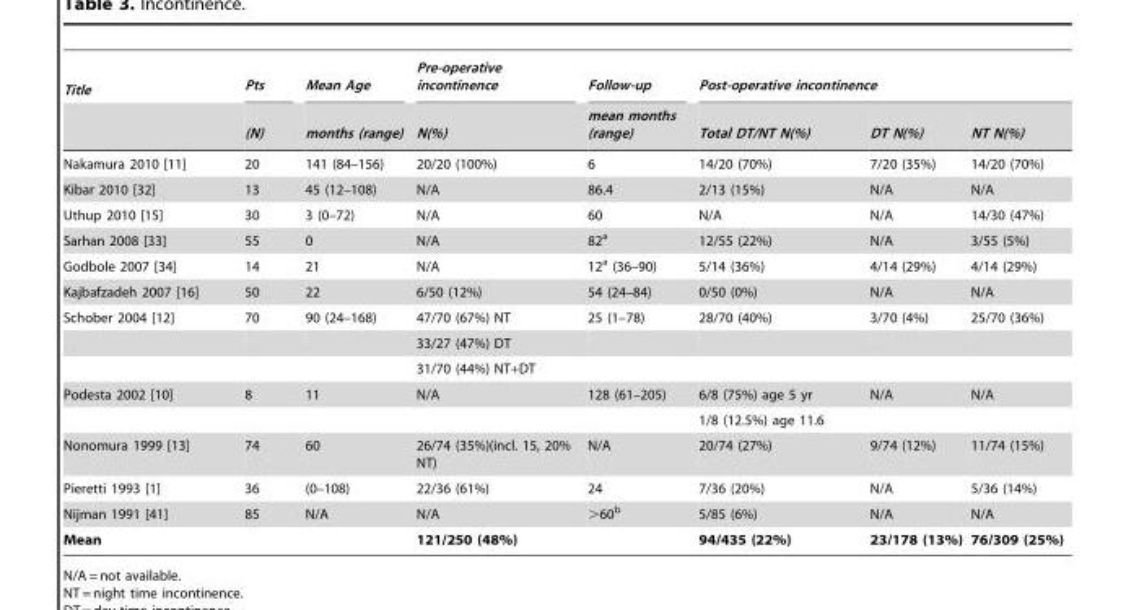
<table><thead><tr><td rowspan="2">Title</td><td rowspan="2">Pts (N)</td><td rowspan="2">Mean Age months (range)</td><td rowspan="2">Pre-operative incontinence N(%)</td><td rowspan="2">Follow-up mean months (range)</td><td colspan="3">Post-operative incontinence</td></tr><tr><td>Total DT/NT N(%)</td><td>DT N(%)</td><td>NT N(%)</td></tr></thead><tbody><tr><td>Nakamura 2010 [11]</td><td>20</td><td>141 (84–156)</td><td>20/20 (100%)</td><td>6</td><td>14/20 (70%)</td><td>7/20 (35%)</td><td>14/20 (70%)</td></tr><tr><td>Kibar 2010 [32]</td><td>13</td><td>45 (12–108)</td><td>N/A</td><td>86.4</td><td>2/13 (15%)</td><td>N/A</td><td>N/A</td></tr><tr><td>Uthup 2010 [15]</td><td>30</td><td>3 (0–72)</td><td>N/A</td><td>60</td><td>N/A</td><td>N/A</td><td>14/30 (47%)</td></tr><tr><td>Sarhan 2008 [33]</td><td>55</td><td>0</td><td>N/A</td><td>82<sup>a</sup></td><td>12/55 (22%)</td><td>N/A</td><td>3/55 (5%)</td></tr><tr><td>Godbole 2007 [34]</td><td>14</td><td>21</td><td>N/A</td><td>12<sup>a</sup> (36–90)</td><td>5/14 (36%)</td><td>4/14 (29%)</td><td>4/14 (29%)</td></tr><tr><td>Kajbafzadeh 2007 [16]</td><td>50</td><td>22</td><td>6/50 (12%)</td><td>54 (24–84)</td><td>0/50 (0%)</td><td>N/A</td><td>N/A</td></tr><tr><td rowspan="3">Schober 2004 [12]</td><td>70</td><td>90 (24–168)</td><td>47/70 (67%) NT</td><td>25 (1–78)</td><td>28/70 (40%)</td><td>3/70 (4%)</td><td>25/70 (36%)</td></tr><tr><td></td><td></td><td>33/27 (47%) DT</td><td></td><td></td><td></td><td></td></tr><tr><td></td><td></td><td>31/70 (44%) NT+DT</td><td></td><td></td><td></td><td></td></tr><tr><td rowspan="2">Podesta 2002 [10]</td><td>8</td><td>11</td><td>N/A</td><td>128 (61–205)</td><td>6/8 (75%) age 5 yr</td><td>N/A</td><td>N/A</td></tr><tr><td></td><td></td><td></td><td></td><td>1/8 (12.5%) age 11.6</td><td></td><td></td></tr><tr><td>Nonomura 1999 [13]</td><td>74</td><td>60</td><td>26/74 (35%)(incl. 15, 20% NT)</td><td>N/A</td><td>20/74 (27%)</td><td>9/74 (12%)</td><td>11/74 (15%)</td></tr><tr><td>Pieretti 1993 [1]</td><td>36</td><td>(0–108)</td><td>22/36 (61%)</td><td>24</td><td>7/36 (20%)</td><td>N/A</td><td>5/36 (14%)</td></tr><tr><td>Nijman 1991 [41]</td><td>85</td><td>N/A</td><td>N/A</td><td>&gt;60<sup>b</sup></td><td>5/85 (6%)</td><td>N/A</td><td>N/A</td></tr><tr><td>Mean</td><td></td><td></td><td>121/250 (48%)</td><td></td><td>94/435 (22%)</td><td>23/178 (13%)</td><td>76/309 (25%)</td></tr></tbody></table>